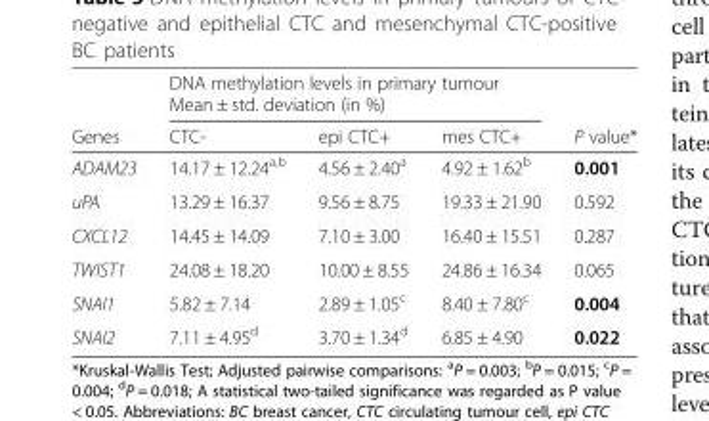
<table><thead><tr><td rowspan="2">Genes</td><td colspan="3">DNA methylation levels in primary tumour Mean ± std. deviation (in %)</td><td rowspan="2">P value*</td></tr><tr><td>CTC-</td><td>epi CTC+</td><td>mes CTC+</td></tr></thead><tbody><tr><td>ADAM23</td><td>14.17 ± 12.24<sup>a,b</sup></td><td>4.56 ± 2.40<sup>a</sup></td><td>4.92 ± 1.62<sup>b</sup></td><td>0.001</td></tr><tr><td>uPA</td><td>13.29 ± 16.37</td><td>9.56 ± 8.75</td><td>19.33 ± 21.90</td><td>0.592</td></tr><tr><td>CXCL12</td><td>14.45 ± 14.09</td><td>7.10 ± 3.00</td><td>16.40 ± 15.51</td><td>0.287</td></tr><tr><td>TWIST1</td><td>24.08 ± 18.20</td><td>10.00 ± 8.55</td><td>24.86 ± 16.34</td><td>0.065</td></tr><tr><td>SNAI1</td><td>5.82 ± 7.14</td><td>2.89 ± 1.05<sup>c</sup></td><td>8.40 ± 7.80<sup>c</sup></td><td>0.004</td></tr><tr><td>SNAI2</td><td>7.11 ± 4.95<sup>d</sup></td><td>3.70 ± 1.34<sup>d</sup></td><td>6.85 ± 4.90</td><td>0.022</td></tr></tbody></table>